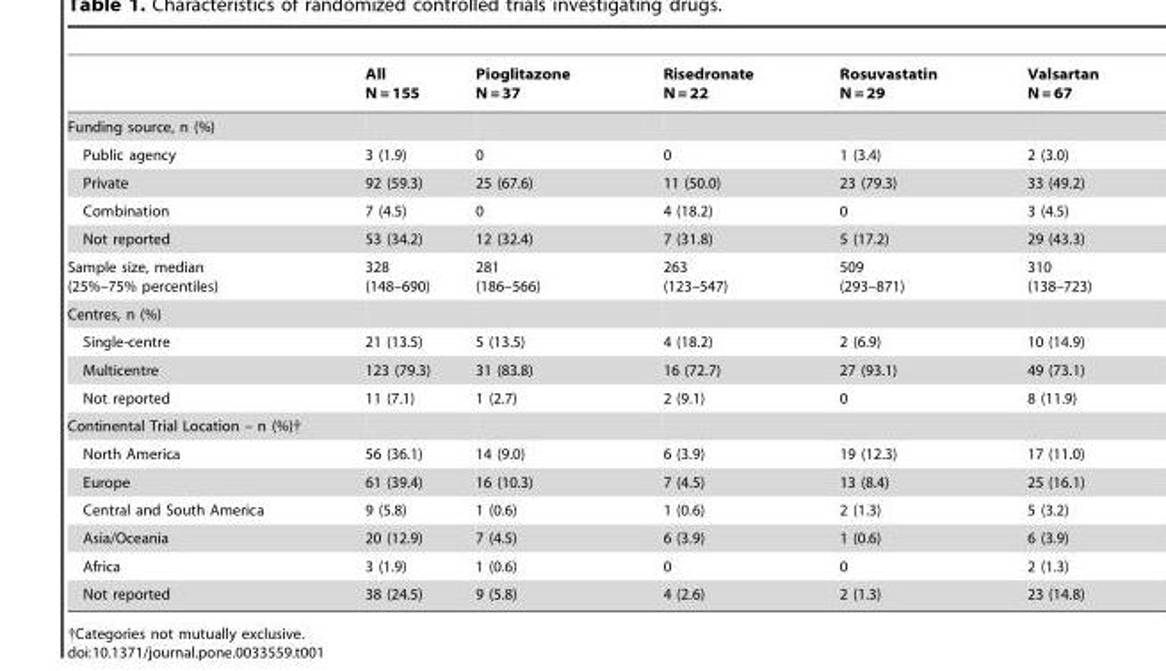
<table><thead><tr><td></td><td>All N = 155</td><td>Pioglitazone N = 37</td><td>Risedronate N = 22</td><td>Rosuvastatin N = 29</td><td>Valsartan N = 67</td></tr></thead><tbody><tr><td colspan="6">Funding source, n (%)</td></tr><tr><td>Public agency</td><td>3 (1.9)</td><td>0</td><td>0</td><td>1 (3.4)</td><td>2 (3.0)</td></tr><tr><td>Private</td><td>92 (59.3)</td><td>25 (67.6)</td><td>11 (50.0)</td><td>23 (79.3)</td><td>33 (49.2)</td></tr><tr><td>Combination</td><td>7 (4.5)</td><td>0</td><td>4 (18.2)</td><td>0</td><td>3 (4.5)</td></tr><tr><td>Not reported</td><td>53 (34.2)</td><td>12 (32.4)</td><td>7 (31.8)</td><td>5 (17.2)</td><td>29 (43.3)</td></tr><tr><td>Sample size, median (25%–75% percentiles)</td><td>328 (148–690)</td><td>281 (186–566)</td><td>263 (123–547)</td><td>509 (293–871)</td><td>310 (138–723)</td></tr><tr><td colspan="6">Centres, n (%)</td></tr><tr><td>Single-centre</td><td>21 (13.5)</td><td>5 (13.5)</td><td>4 (18.2)</td><td>2 (6.9)</td><td>10 (14.9)</td></tr><tr><td>Multicentre</td><td>123 (79.3)</td><td>31 (83.8)</td><td>16 (72.7)</td><td>27 (93.1)</td><td>49 (73.1)</td></tr><tr><td>Not reported</td><td>11 (7.1)</td><td>1 (2.7)</td><td>2 (9.1)</td><td>0</td><td>8 (11.9)</td></tr><tr><td colspan="6">Continental Trial Location – n (%)†</td></tr><tr><td>North America</td><td>56 (36.1)</td><td>14 (9.0)</td><td>6 (3.9)</td><td>19 (12.3)</td><td>17 (11.0)</td></tr><tr><td>Europe</td><td>61 (39.4)</td><td>16 (10.3)</td><td>7 (4.5)</td><td>13 (8.4)</td><td>25 (16.1)</td></tr><tr><td>Central and South America</td><td>9 (5.8)</td><td>1 (0.6)</td><td>1 (0.6)</td><td>2 (1.3)</td><td>5 (3.2)</td></tr><tr><td>Asia/Oceania</td><td>20 (12.9)</td><td>7 (4.5)</td><td>6 (3.9)</td><td>1 (0.6)</td><td>6 (3.9)</td></tr><tr><td>Africa</td><td>3 (1.9)</td><td>1 (0.6)</td><td>0</td><td>0</td><td>2 (1.3)</td></tr><tr><td>Not reported</td><td>38 (24.5)</td><td>9 (5.8)</td><td>4 (2.6)</td><td>2 (1.3)</td><td>23 (14.8)</td></tr></tbody></table>